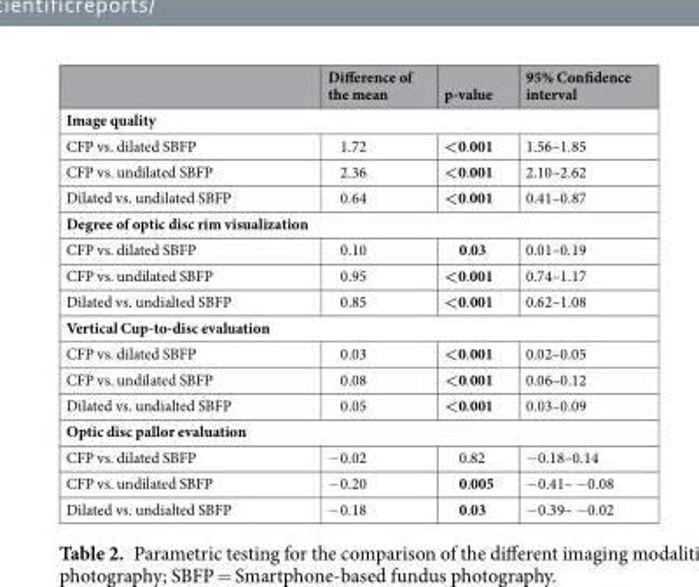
<table><thead><tr><td></td><td>Difference of the mean</td><td>p-value</td><td>95% Confidence interval</td></tr></thead><tbody><tr><td colspan="4">Image quality</td></tr><tr><td>CFP vs. dilated SBFP</td><td>1.72</td><td>&lt;0.001</td><td>1.56–1.85</td></tr><tr><td>CFP vs. undilated SBFP</td><td>2.36</td><td>&lt;0.001</td><td>2.10–2.62</td></tr><tr><td>Dilated vs. undilated SBFP</td><td>0.64</td><td>&lt;0.001</td><td>0.41–0.87</td></tr><tr><td colspan="4">Degree of optic disc rim visualization</td></tr><tr><td>CFP vs. dilated SBFP</td><td>0.10</td><td>0.03</td><td>0.01–0.19</td></tr><tr><td>CFP vs. undilated SBFP</td><td>0.95</td><td>&lt;0.001</td><td>0.74–1.17</td></tr><tr><td>Dilated vs. undialted SBFP</td><td>0.85</td><td>&lt;0.001</td><td>0.62–1.08</td></tr><tr><td colspan="4">Vertical Cup-to-disc evaluation</td></tr><tr><td>CFP vs. dilated SBFP</td><td>0.03</td><td>&lt;0.001</td><td>0.02–0.05</td></tr><tr><td>CFP vs. undilated SBFP</td><td>0.08</td><td>&lt;0.001</td><td>0.06–0.12</td></tr><tr><td>Dilated vs. undialted SBFP</td><td>0.05</td><td>&lt;0.001</td><td>0.03–0.09</td></tr><tr><td colspan="4">Optic disc pallor evaluation</td></tr><tr><td>CFP vs. dilated SBFP</td><td>−0.02</td><td>0.82</td><td>−0.18–0.14</td></tr><tr><td>CFP vs. undilated SBFP</td><td>−0.20</td><td>0.005</td><td>−0.41– −0.08</td></tr><tr><td>Dilated vs. undialted SBFP</td><td>−0.18</td><td>0.03</td><td>−0.39– −0.02</td></tr></tbody></table>